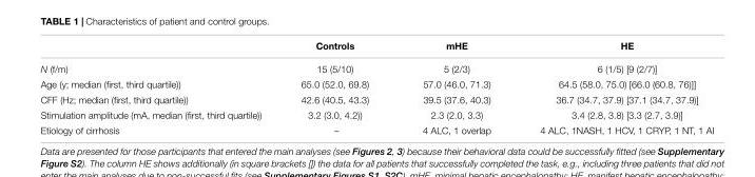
<table><thead><tr><td></td><td>Controls</td><td>mHE</td><td>HE</td></tr></thead><tbody><tr><td>N (f/m)</td><td>15 (5/10)</td><td>5 (2/3)</td><td>6 (1/5) [9 (2/7)]</td></tr><tr><td>Age (y; median (first, third quartile))</td><td>65.0 (52.0, 69.8)</td><td>57.0 (46.0, 71.3)</td><td>64.5 (58.0, 75.0) [66.0 (60.8, 76)]]</td></tr><tr><td>CFF (Hz; median (first, third quartile))</td><td>42.6 (40.5, 43.3)</td><td>39.5 (37.6, 40.3)</td><td>36.7 (34.7, 37.9) [37.1 (34.7, 37.9)]</td></tr><tr><td>Stimulation amplitude (mA, median (first, third quartile))</td><td>3.2 (3.0, 4.2))</td><td>2.3 (2.0, 3.3)</td><td>3.4 (2.8, 3.8) [3.3 (2.7, 3.9)]</td></tr><tr><td>Etiology of cirrhosis</td><td>–</td><td>4 ALC, 1 overlap</td><td>4 ALC, 1NASH, 1 HCV, 1 CRYP, 1 NT, 1 AI</td></tr></tbody></table>